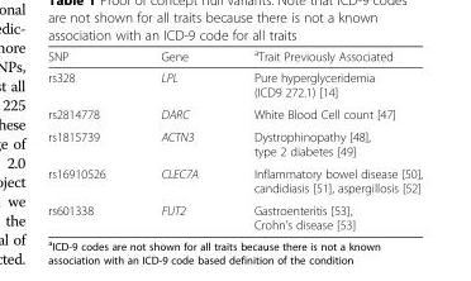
<table><thead><tr><td>SNP</td><td>Gene</td><td><sup>a</sup>Trait Previously Associated</td></tr></thead><tbody><tr><td>rs328</td><td>LPL</td><td>Pure hyperglyceridemia (ICD9 272.1) [14]</td></tr><tr><td>rs2814778</td><td>DARC</td><td>White Blood Cell count [47]</td></tr><tr><td>rs1815739</td><td>ACTN3</td><td>Dystrophinopathy [48], type 2 diabetes [49]</td></tr><tr><td>rs16910526</td><td>CLEC7A</td><td>Inflammatory bowel disease [50], candidiasis [51], aspergillosis [52]</td></tr><tr><td>rs601338</td><td>FUT2</td><td>Gastroenteritis [53], Crohn’s disease [53]</td></tr></tbody></table>